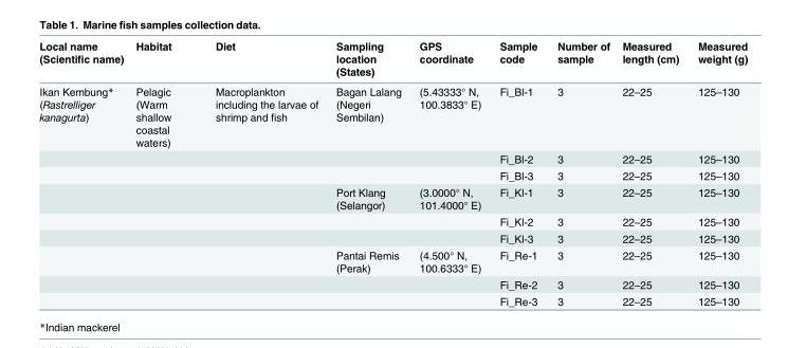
<table><thead><tr><td>Local name (Scientific name)</td><td>Habitat</td><td>Diet</td><td>Sampling location (States)</td><td>GPS coordinate</td><td>Sample code</td><td>Number of sample</td><td>Measured length (cm)</td><td>Measured weight (g)</td></tr></thead><tbody><tr><td rowspan="9">Ikan Kembung* (Rastrelliger kanagurta)</td><td>Pelagic (Warm shallow coastal waters)</td><td>Macroplankton including the larvae of shrimp and fish</td><td>Bagan Lalang (Negeri Sembilan)</td><td>(5.43333° N, 100.3833° E)</td><td>Fi_Bl-1</td><td>3</td><td>22–25</td><td>125–130</td></tr><tr><td></td><td></td><td></td><td></td><td>Fi_Bl-2</td><td>3</td><td>22–25</td><td>125–130</td></tr><tr><td></td><td></td><td></td><td></td><td>Fi_Bl-3</td><td>3</td><td>22–25</td><td>125–130</td></tr><tr><td></td><td></td><td>Port Klang (Selangor)</td><td>(3.0000° N, 101.4000° E)</td><td>Fi_Kl-1</td><td>3</td><td>22–25</td><td>125–130</td></tr><tr><td></td><td></td><td></td><td></td><td>Fi_Kl-2</td><td>3</td><td>22–25</td><td>125–130</td></tr><tr><td></td><td></td><td></td><td></td><td>Fi_Kl-3</td><td>3</td><td>22–25</td><td>125–130</td></tr><tr><td></td><td></td><td>Pantai Remis (Perak)</td><td>(4.500° N, 100.6333° E)</td><td>Fi_Re-1</td><td>3</td><td>22–25</td><td>125–130</td></tr><tr><td></td><td></td><td></td><td></td><td>Fi_Re-2</td><td>3</td><td>22–25</td><td>125–130</td></tr><tr><td></td><td></td><td></td><td></td><td>Fi_Re-3</td><td>3</td><td>22–25</td><td>125–130</td></tr></tbody></table>